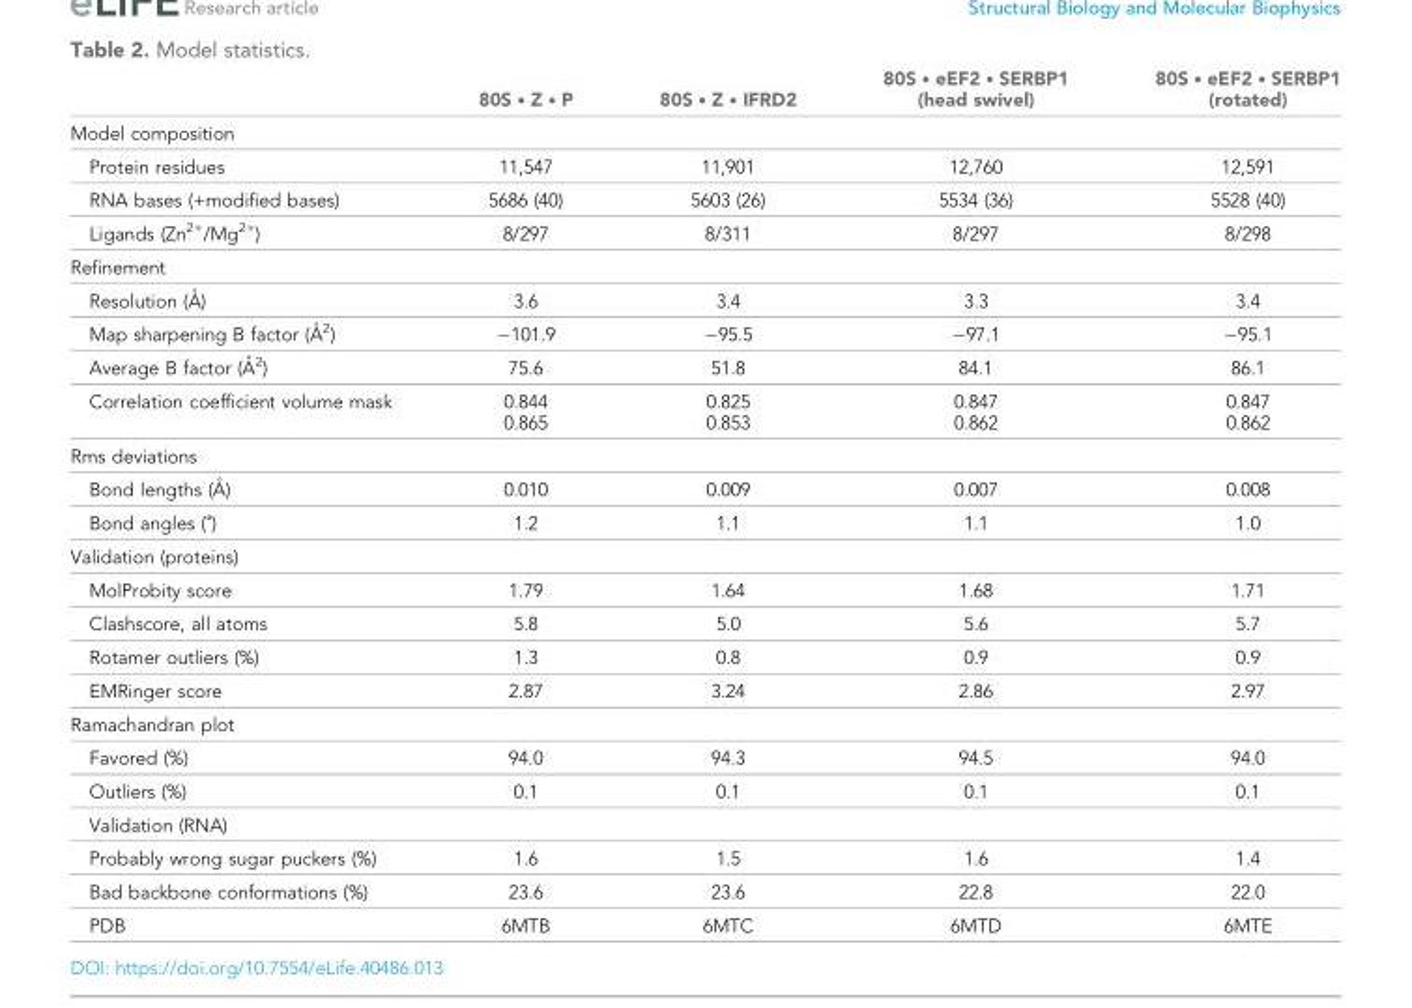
<table><thead><tr><td></td><td>80S . Z . P</td><td>80S . Z . IFRD2</td><td>80S . eEF2 . SERBP1 (head swivel)</td><td>80S . eEF2 . SERBP1 (rotated)</td></tr></thead><tbody><tr><td colspan="5">Model composition</td></tr><tr><td>Protein residues</td><td>11,547</td><td>11,901</td><td>12,760</td><td>12,591</td></tr><tr><td>RNA bases (+modified bases)</td><td>5686 (40)</td><td>5603 (26)</td><td>5534 (36)</td><td>5528 (40)</td></tr><tr><td>Ligands (Zn<sup>2+</sup>/Mg<sup>2+</sup>)</td><td>8/297</td><td>8/311</td><td>8/297</td><td>8/298</td></tr><tr><td colspan="5">Refinement</td></tr><tr><td>Resolution (A˚ )</td><td>3.6</td><td>3.4</td><td>3.3</td><td>3.4</td></tr><tr><td>Map sharpening B factor (A˚ 2)</td><td>−101.9</td><td>−95.5</td><td>−97.1</td><td>−95.1</td></tr><tr><td>Average B factor (A˚ 2)</td><td>75.6</td><td>51.8</td><td>84.1</td><td>86.1</td></tr><tr><td>Correlation coefficient volume mask</td><td>0.844 0.865</td><td>0.825 0.853</td><td>0.847 0.862</td><td>0.847 0.862</td></tr><tr><td colspan="5">Rms deviations</td></tr><tr><td>Bond lengths (A˚ )</td><td>0.010</td><td>0.009</td><td>0.007</td><td>0.008</td></tr><tr><td>Bond angles (˚)</td><td>1.2</td><td>1.1</td><td>1.1</td><td>1.0</td></tr><tr><td colspan="5">Validation (proteins)</td></tr><tr><td>MolProbity score</td><td>1.79</td><td>1.64</td><td>1.68</td><td>1.71</td></tr><tr><td>Clashscore, all atoms</td><td>5.8</td><td>5.0</td><td>5.6</td><td>5.7</td></tr><tr><td>Rotamer outliers (%)</td><td>1.3</td><td>0.8</td><td>0.9</td><td>0.9</td></tr><tr><td>EMRinger score</td><td>2.87</td><td>3.24</td><td>2.86</td><td>2.97</td></tr><tr><td colspan="5">Ramachandran plot</td></tr><tr><td>Favored (%)</td><td>94.0</td><td>94.3</td><td>94.5</td><td>94.0</td></tr><tr><td>Outliers (%)</td><td>0.1</td><td>0.1</td><td>0.1</td><td>0.1</td></tr><tr><td colspan="5">Validation (RNA)</td></tr><tr><td>Probably wrong sugar puckers (%)</td><td>1.6</td><td>1.5</td><td>1.6</td><td>1.4</td></tr><tr><td>Bad backbone conformations (%)</td><td>23.6</td><td>23.6</td><td>22.8</td><td>22.0</td></tr><tr><td>PDB</td><td>6MTB</td><td>6MTC</td><td>6MTD</td><td>6MTE</td></tr></tbody></table>